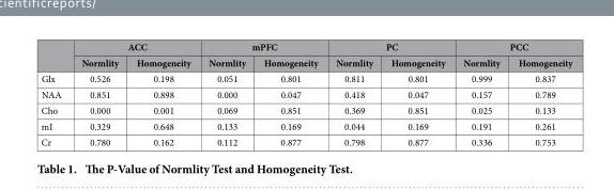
<table><thead><tr><td rowspan="2"></td><td colspan="2">ACC</td><td colspan="2">mPFC</td><td colspan="2">PC</td><td colspan="2">PCC</td></tr><tr><td>Normlity</td><td>Homogeneity</td><td>Normlity</td><td>Homogeneity</td><td>Normlity</td><td>Homogeneity</td><td>Normlity</td><td>Homogeneity</td></tr></thead><tbody><tr><td>Glx</td><td>0.526</td><td>0.198</td><td>0.051</td><td>0.801</td><td>0.811</td><td>0.801</td><td>0.999</td><td>0.837</td></tr><tr><td>NAA</td><td>0.851</td><td>0.898</td><td>0.000</td><td>0.047</td><td>0.418</td><td>0.047</td><td>0.157</td><td>0.789</td></tr><tr><td>Cho</td><td>0.000</td><td>0.001</td><td>0.069</td><td>0.851</td><td>0.369</td><td>0.851</td><td>0.025</td><td>0.133</td></tr><tr><td>mI</td><td>0.329</td><td>0.648</td><td>0.133</td><td>0.169</td><td>0.044</td><td>0.169</td><td>0.191</td><td>0.261</td></tr><tr><td>Cr</td><td>0.780</td><td>0.162</td><td>0.112</td><td>0.877</td><td>0.798</td><td>0.877</td><td>0.336</td><td>0.753</td></tr></tbody></table>